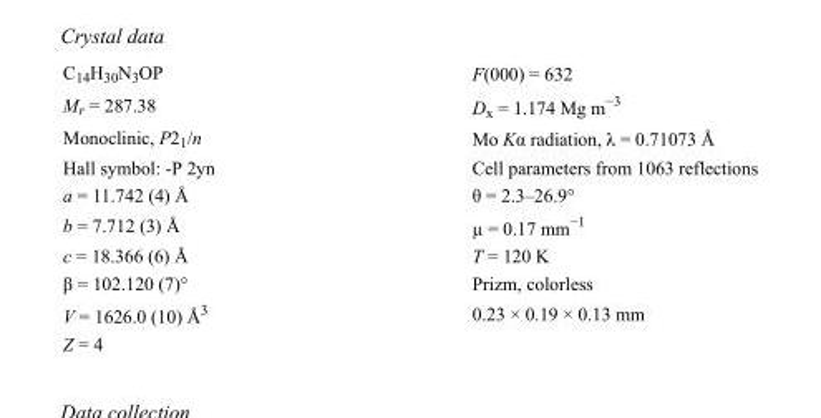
<table><tbody><tr><td>C<sub>14</sub>H<sub>30</sub>N<sub>3</sub>OP</td><td>F(000) = 632</td></tr><tr><td>M<sub>r</sub> = 287.38</td><td>D<sub>x</sub> = 1.174 Mg m<sup>−3</sup></td></tr><tr><td>Monoclinic, P2<sub>1</sub>/n</td><td>Mo Kα radiation, λ = 0.71073 Å</td></tr><tr><td>Hall symbol: -P 2yn</td><td>Cell parameters from 1063 reflections</td></tr><tr><td>a = 11.742 (4) Å</td><td>θ = 2.3–26.9°</td></tr><tr><td>b = 7.712 (3) Å</td><td>µ = 0.17 mm<sup>−1</sup></td></tr><tr><td>c = 18.366 (6) Å</td><td>T = 120 K</td></tr><tr><td>β = 102.120 (7)°</td><td>Prizm, colorless</td></tr><tr><td>V = 1626.0 (10) Å<sup>3</sup></td><td>0.23 × 0.19 × 0.13 mm</td></tr><tr><td>Z = 4</td><td></td></tr></tbody></table>